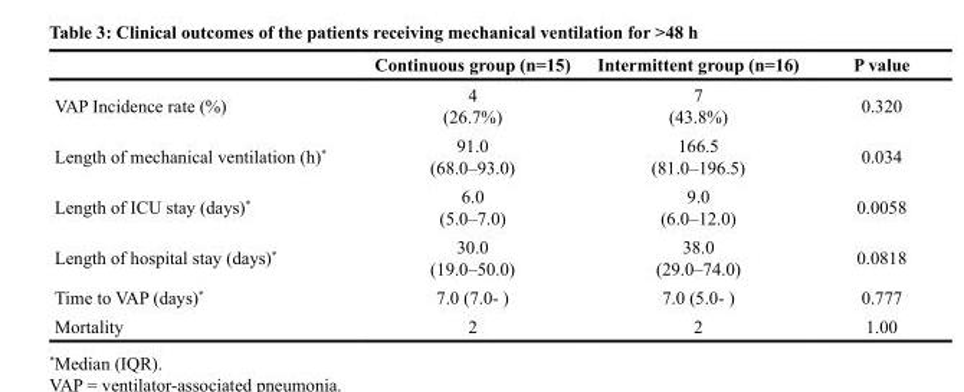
<table><thead><tr><td></td><td>Continuous group (n=15)</td><td>Intermittent group (n=16)</td><td>P value</td></tr></thead><tbody><tr><td>VAP Incidence rate (%)</td><td>4 (26.7%)</td><td>7 (43.8%)</td><td>0.320</td></tr><tr><td>Length of mechanical ventilation (h)*</td><td>91.0 (68.0–93.0)</td><td>166.5 (81.0–196.5)</td><td>0.034</td></tr><tr><td>Length of ICU stay (days)*</td><td>6.0 (5.0–7.0)</td><td>9.0 (6.0–12.0)</td><td>0.0058</td></tr><tr><td>Length of hospital stay (days)*</td><td>30.0 (19.0–50.0)</td><td>38.0 (29.0–74.0)</td><td>0.0818</td></tr><tr><td>Time to VAP (days)*</td><td>7.0 (7.0- )</td><td>7.0 (5.0- )</td><td>0.777</td></tr><tr><td>Mortality</td><td>2</td><td>2</td><td>1.00</td></tr></tbody></table>